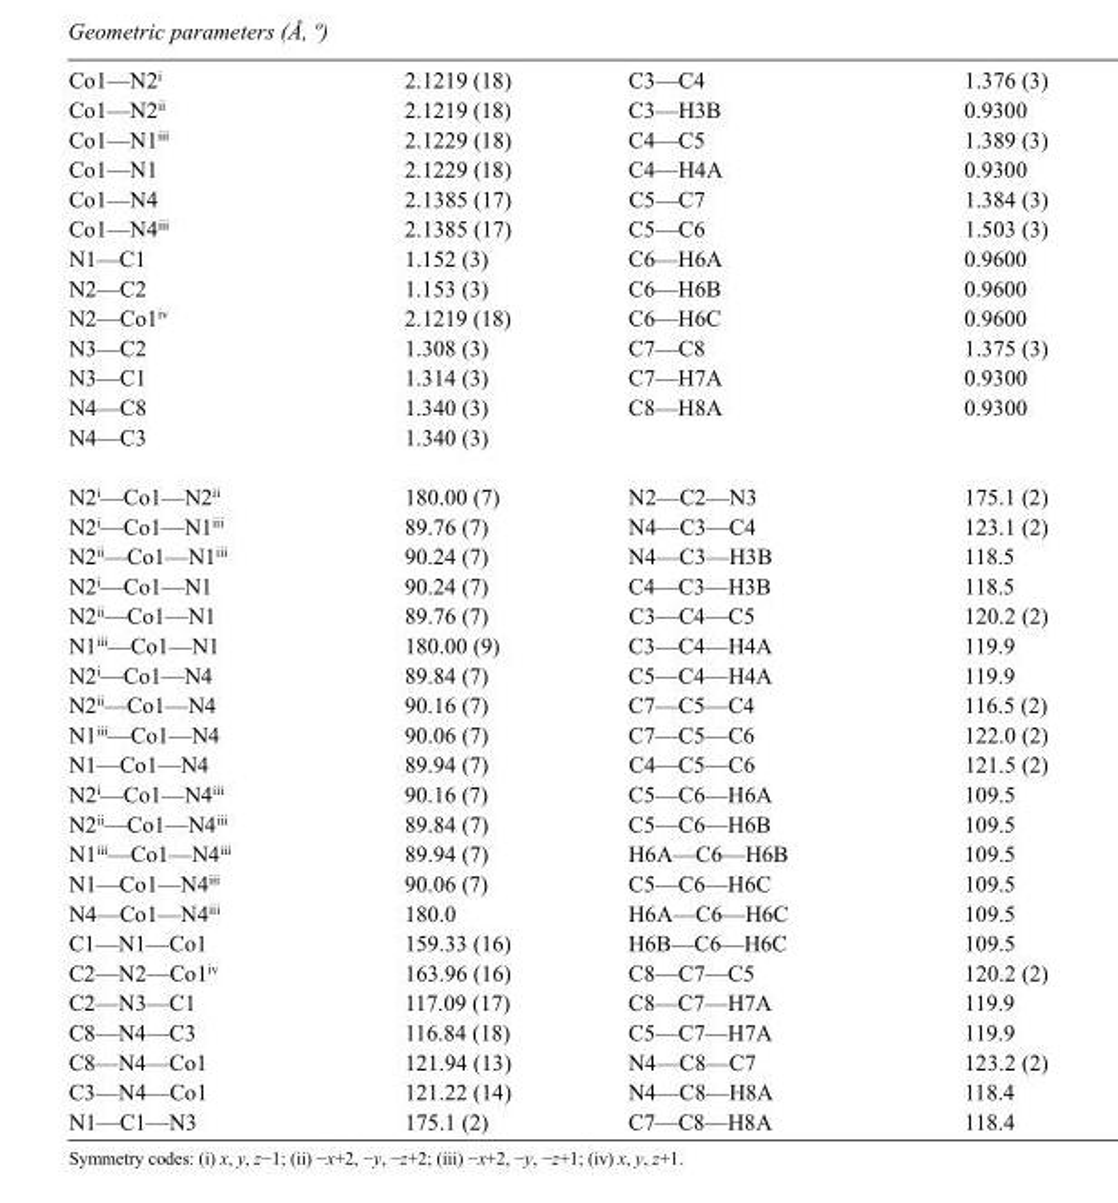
<table><tbody><tr><td>Co1—N2<sup>i</sup></td><td>2.1219 (18)</td><td>C3—C4</td><td>1.376 (3)</td></tr><tr><td>Co1—N2<sup>ii</sup></td><td>2.1219 (18)</td><td>C3—H3B</td><td>0.9300</td></tr><tr><td>Co1—N1<sup>iii</sup></td><td>2.1229 (18)</td><td>C4—C5</td><td>1.389 (3)</td></tr><tr><td>Co1—N1</td><td>2.1229 (18)</td><td>C4—H4A</td><td>0.9300</td></tr><tr><td>Co1—N4</td><td>2.1385 (17)</td><td>C5—C7</td><td>1.384 (3)</td></tr><tr><td>Co1—N4<sup>iii</sup></td><td>2.1385 (17)</td><td>C5—C6</td><td>1.503 (3)</td></tr><tr><td>N1—C1</td><td>1.152 (3)</td><td>C6—H6A</td><td>0.9600</td></tr><tr><td>N2—C2</td><td>1.153 (3)</td><td>C6—H6B</td><td>0.9600</td></tr><tr><td>N2—Co1<sup>iv</sup></td><td>2.1219 (18)</td><td>C6—H6C</td><td>0.9600</td></tr><tr><td>N3—C2</td><td>1.308 (3)</td><td>C7—C8</td><td>1.375 (3)</td></tr><tr><td>N3—C1</td><td>1.314 (3)</td><td>C7—H7A</td><td>0.9300</td></tr><tr><td>N4—C8</td><td>1.340 (3)</td><td>C8—H8A</td><td>0.9300</td></tr><tr><td>N4—C3</td><td>1.340 (3)</td><td></td><td></td></tr><tr><td>N2<sup>i</sup>—Co1—N2<sup>ii</sup></td><td>180.00 (7)</td><td>N2—C2—N3</td><td>175.1 (2)</td></tr><tr><td>N2<sup>i</sup>—Co1—N1<sup>iii</sup></td><td>89.76 (7)</td><td>N4—C3—C4</td><td>123.1 (2)</td></tr><tr><td>N2<sup>ii</sup>—Co1—N1<sup>iii</sup></td><td>90.24 (7)</td><td>N4—C3—H3B</td><td>118.5</td></tr><tr><td>N2<sup>i</sup>—Co1—N1</td><td>90.24 (7)</td><td>C4—C3—H3B</td><td>118.5</td></tr><tr><td>N2<sup>ii</sup>—Co1—N1</td><td>89.76 (7)</td><td>C3—C4—C5</td><td>120.2 (2)</td></tr><tr><td>N1<sup>iii</sup>—Co1—N1</td><td>180.00 (9)</td><td>C3—C4—H4A</td><td>119.9</td></tr><tr><td>N2<sup>i</sup>—Co1—N4</td><td>89.84 (7)</td><td>C5—C4—H4A</td><td>119.9</td></tr><tr><td>N2<sup>ii</sup>—Co1—N4</td><td>90.16 (7)</td><td>C7—C5—C4</td><td>116.5 (2)</td></tr><tr><td>N1<sup>iii</sup>—Co1—N4</td><td>90.06 (7)</td><td>C7—C5—C6</td><td>122.0 (2)</td></tr><tr><td>N1—Co1—N4</td><td>89.94 (7)</td><td>C4—C5—C6</td><td>121.5 (2)</td></tr><tr><td>N2<sup>i</sup>—Co1—N4<sup>iii</sup></td><td>90.16 (7)</td><td>C5—C6—H6A</td><td>109.5</td></tr><tr><td>N2<sup>ii</sup>—Co1—N4<sup>iii</sup></td><td>89.84 (7)</td><td>C5—C6—H6B</td><td>109.5</td></tr><tr><td>N1<sup>iii</sup>—Co1—N4<sup>iii</sup></td><td>89.94 (7)</td><td>H6A—C6—H6B</td><td>109.5</td></tr><tr><td>N1—Co1—N4<sup>iii</sup></td><td>90.06 (7)</td><td>C5—C6—H6C</td><td>109.5</td></tr><tr><td>N4—Co1—N4<sup>iii</sup></td><td>180.0</td><td>H6A—C6—H6C</td><td>109.5</td></tr><tr><td>C1—N1—Co1</td><td>159.33 (16)</td><td>H6B—C6—H6C</td><td>109.5</td></tr><tr><td>C2—N2—Co1<sup>iv</sup></td><td>163.96 (16)</td><td>C8—C7—C5</td><td>120.2 (2)</td></tr><tr><td>C2—N3—C1</td><td>117.09 (17)</td><td>C8—C7—H7A</td><td>119.9</td></tr><tr><td>C8—N4—C3</td><td>116.84 (18)</td><td>C5—C7—H7A</td><td>119.9</td></tr><tr><td>C8—N4—Co1</td><td>121.94 (13)</td><td>N4—C8—C7</td><td>123.2 (2)</td></tr><tr><td>C3—N4—Co1</td><td>121.22 (14)</td><td>N4—C8—H8A</td><td>118.4</td></tr><tr><td>N1—C1—N3</td><td>175.1 (2)</td><td>C7—C8—H8A</td><td>118.4</td></tr></tbody></table>